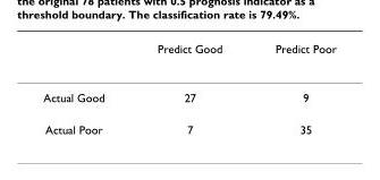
<table><thead><tr><td></td><td>Predict Good</td><td>Predict Poor</td></tr></thead><tbody><tr><td>Actual Good</td><td>27</td><td>9</td></tr><tr><td>Actual Poor</td><td>7</td><td>35</td></tr></tbody></table>